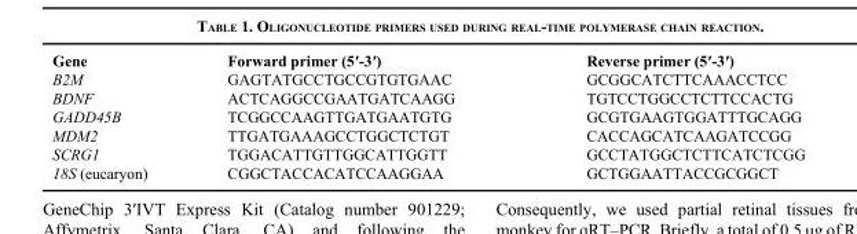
<table><thead><tr><td>Gene</td><td>Forward primer (5′-3′)</td><td>Reverse primer (5′-3′)</td></tr></thead><tbody><tr><td>B2M</td><td>GAGTATGCCTGCCGTGTGAAC</td><td>GCGGCATCTTCAAACCTCC</td></tr><tr><td>BDNF</td><td>ACTCAGGCCGAATGATCAAGG</td><td>TGTCCTGGCCTCTTCCACTG</td></tr><tr><td>GADD45B</td><td>TCGGCCAAGTTGATGAATGTG</td><td>GCGTGAAGTGGATTTGCAGG</td></tr><tr><td>MDM2</td><td>TTGATGAAAGCCTGGCTCTGT</td><td>CACCAGCATCAAGATCCGG</td></tr><tr><td>SCRG1</td><td>TGGACATTGTTGGCATTGGTT</td><td>GCCTATGGCTCTTCATCTCGG</td></tr><tr><td>18S (eucaryon)</td><td>CGGCTACCACATCCAAGGAA</td><td>GCTGGAATTACCGCGGCT</td></tr></tbody></table>